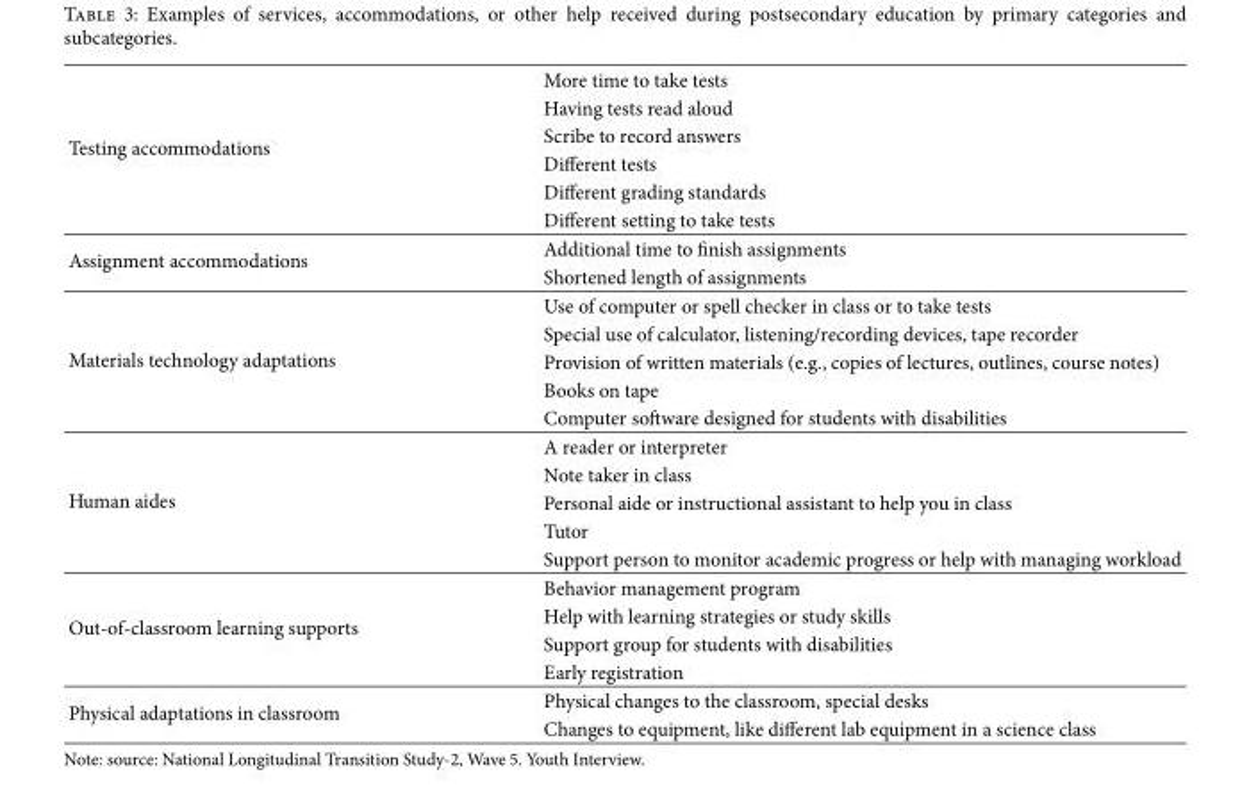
<table><tbody><tr><td rowspan="6">Testing accommodations</td><td>More time to take tests</td></tr><tr><td>Having tests read aloud</td></tr><tr><td>Scribe to record answers</td></tr><tr><td>Different tests</td></tr><tr><td>Different grading standards</td></tr><tr><td>Different setting to take tests</td></tr><tr><td rowspan="2">Assignment accommodations</td><td>Additional time to finish assignments</td></tr><tr><td>Shortened length of assignments</td></tr><tr><td rowspan="5">Materials technology adaptations</td><td>Use of computer or spell checker in class or to take tests</td></tr><tr><td>Special use of calculator, listening/recording devices, tape recorder</td></tr><tr><td>Provision of written materials (e.g., copies of lectures, outlines, course notes)</td></tr><tr><td>Books on tape</td></tr><tr><td>Computer software designed for students with disabilities</td></tr><tr><td rowspan="5">Human aides</td><td>A reader or interpreter</td></tr><tr><td>Note taker in class</td></tr><tr><td>Personal aide or instructional assistant to help you in class</td></tr><tr><td>Tutor</td></tr><tr><td>Support person to monitor academic progress or help with managing workload</td></tr><tr><td rowspan="4">Out-of-classroom learning supports</td><td>Behavior management program</td></tr><tr><td>Help with learning strategies or study skills</td></tr><tr><td>Support group for students with disabilities</td></tr><tr><td>Early registration</td></tr><tr><td rowspan="2">Physical adaptations in classroom</td><td>Physical changes to the classroom, special desks</td></tr><tr><td>Changes to equipment, like different lab equipment in a science class</td></tr></tbody></table>